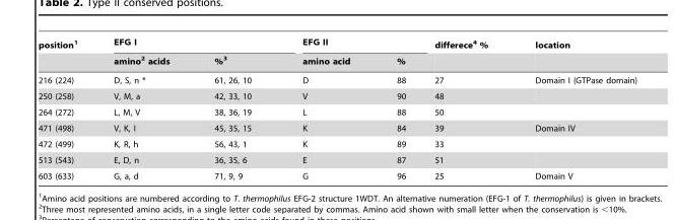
<table><thead><tr><td rowspan="2">position<sup>1</sup></td><td colspan="2">EFG I</td><td colspan="2">EFG II</td><td rowspan="2">differece<sup>4</sup> %</td><td rowspan="2">location</td></tr><tr><td>amino<sup>2</sup> acids</td><td>%<sup>3</sup></td><td>amino acid</td><td>%</td></tr></thead><tbody><tr><td>216 (224)</td><td>D, S, n *</td><td>61, 26, 10</td><td>D</td><td>88</td><td>27</td><td>Domain I (GTPase domain)</td></tr><tr><td>250 (258)</td><td>V, M, a</td><td>42, 33, 10</td><td>V</td><td>90</td><td>48</td><td></td></tr><tr><td>264 (272)</td><td>L, M, V</td><td>38, 36, 19</td><td>L</td><td>88</td><td>50</td><td></td></tr><tr><td>471 (498)</td><td>V, K, I</td><td>45, 35, 15</td><td>K</td><td>84</td><td>39</td><td>Domain IV</td></tr><tr><td>472 (499)</td><td>K, R, h</td><td>56, 43, 1</td><td>K</td><td>89</td><td>33</td><td></td></tr><tr><td>513 (543)</td><td>E, D, n</td><td>36, 35, 6</td><td>E</td><td>87</td><td>51</td><td></td></tr><tr><td>603 (633)</td><td>G, a, d</td><td>71, 9, 9</td><td>G</td><td>96</td><td>25</td><td>Domain V</td></tr></tbody></table>